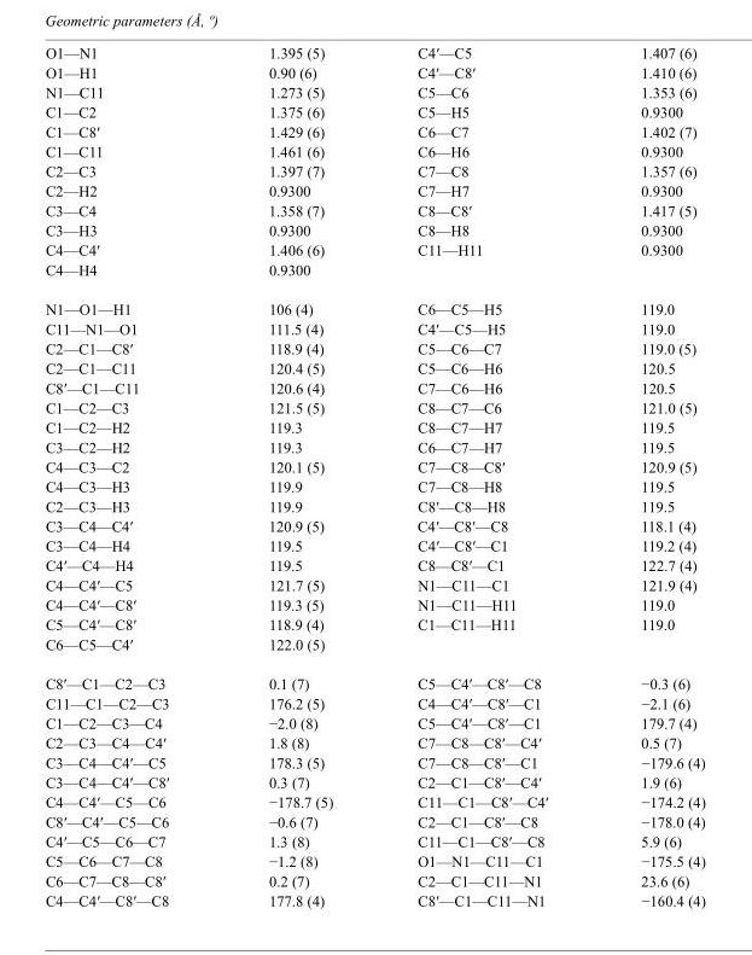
<table><tbody><tr><td>O1—N1</td><td>1.395 (5)</td><td>C4′—C5</td><td>1.407 (6)</td></tr><tr><td>O1—H1</td><td>0.90 (6)</td><td>C4′—C8′</td><td>1.410 (6)</td></tr><tr><td>N1—C11</td><td>1.273 (5)</td><td>C5—C6</td><td>1.353 (6)</td></tr><tr><td>C1—C2</td><td>1.375 (6)</td><td>C5—H5</td><td>0.9300</td></tr><tr><td>C1—C8′</td><td>1.429 (6)</td><td>C6—C7</td><td>1.402 (7)</td></tr><tr><td>C1—C11</td><td>1.461 (6)</td><td>C6—H6</td><td>0.9300</td></tr><tr><td>C2—C3</td><td>1.397 (7)</td><td>C7—C8</td><td>1.357 (6)</td></tr><tr><td>C2—H2</td><td>0.9300</td><td>C7—H7</td><td>0.9300</td></tr><tr><td>C3—C4</td><td>1.358 (7)</td><td>C8—C8′</td><td>1.417 (5)</td></tr><tr><td>C3—H3</td><td>0.9300</td><td>C8—H8</td><td>0.9300</td></tr><tr><td>C4—C4′</td><td>1.406 (6)</td><td>C11—H11</td><td>0.9300</td></tr><tr><td>C4—H4</td><td>0.9300</td><td></td><td></td></tr><tr><td>N1—O1—H1</td><td>106 (4)</td><td>C6—C5—H5</td><td>119.0</td></tr><tr><td>C11—N1—O1</td><td>111.5 (4)</td><td>C4′—C5—H5</td><td>119.0</td></tr><tr><td>C2—C1—C8′</td><td>118.9 (4)</td><td>C5—C6—C7</td><td>119.0 (5)</td></tr><tr><td>C2—C1—C11</td><td>120.4 (5)</td><td>C5—C6—H6</td><td>120.5</td></tr><tr><td>C8′—C1—C11</td><td>120.6 (4)</td><td>C7—C6—H6</td><td>120.5</td></tr><tr><td>C1—C2—C3</td><td>121.5 (5)</td><td>C8—C7—C6</td><td>121.0 (5)</td></tr><tr><td>C1—C2—H2</td><td>119.3</td><td>C8—C7—H7</td><td>119.5</td></tr><tr><td>C3—C2—H2</td><td>119.3</td><td>C6—C7—H7</td><td>119.5</td></tr><tr><td>C4—C3—C2</td><td>120.1 (5)</td><td>C7—C8—C8′</td><td>120.9 (5)</td></tr><tr><td>C4—C3—H3</td><td>119.9</td><td>C7—C8—H8</td><td>119.5</td></tr><tr><td>C2—C3—H3</td><td>119.9</td><td>C8′—C8—H8</td><td>119.5</td></tr><tr><td>C3—C4—C4′</td><td>120.9 (5)</td><td>C4′—C8′—C8</td><td>118.1 (4)</td></tr><tr><td>C3—C4—H4</td><td>119.5</td><td>C4′—C8′—C1</td><td>119.2 (4)</td></tr><tr><td>C4′—C4—H4</td><td>119.5</td><td>C8—C8′—C1</td><td>122.7 (4)</td></tr><tr><td>C4—C4′—C5</td><td>121.7 (5)</td><td>N1—C11—C1</td><td>121.9 (4)</td></tr><tr><td>C4—C4′—C8′</td><td>119.3 (5)</td><td>N1—C11—H11</td><td>119.0</td></tr><tr><td>C5—C4′—C8′</td><td>118.9 (4)</td><td>C1—C11—H11</td><td>119.0</td></tr><tr><td>C6—C5—C4′</td><td>122.0 (5)</td><td></td><td></td></tr><tr><td>C8′—C1—C2—C3</td><td>0.1 (7)</td><td>C5—C4′—C8′—C8</td><td>−0.3 (6)</td></tr><tr><td>C11—C1—C2—C3</td><td>176.2 (5)</td><td>C4—C4′—C8′—C1</td><td>−2.1 (6)</td></tr><tr><td>C1—C2—C3—C4</td><td>−2.0 (8)</td><td>C5—C4′—C8′—C1</td><td>179.7 (4)</td></tr><tr><td>C2—C3—C4—C4′</td><td>1.8 (8)</td><td>C7—C8—C8′—C4′</td><td>0.5 (7)</td></tr><tr><td>C3—C4—C4′—C5</td><td>178.3 (5)</td><td>C7—C8—C8′—C1</td><td>−179.6 (4)</td></tr><tr><td>C3—C4—C4′—C8′</td><td>0.3 (7)</td><td>C2—C1—C8′—C4′</td><td>1.9 (6)</td></tr><tr><td>C4—C4′—C5—C6</td><td>−178.7 (5)</td><td>C11—C1—C8′—C4′</td><td>−174.2 (4)</td></tr><tr><td>C8′—C4′—C5—C6</td><td>−0.6 (7)</td><td>C2—C1—C8′—C8</td><td>−178.0 (4)</td></tr><tr><td>C4′—C5—C6—C7</td><td>1.3 (8)</td><td>C11—C1—C8′—C8</td><td>5.9 (6)</td></tr><tr><td>C5—C6—C7—C8</td><td>−1.2 (8)</td><td>O1—N1—C11—C1</td><td>−175.5 (4)</td></tr><tr><td>C6—C7—C8—C8′</td><td>0.2 (7)</td><td>C2—C1—C11—N1</td><td>23.6 (6)</td></tr><tr><td>C4—C4′—C8′—C8</td><td>177.8 (4)</td><td>C8′—C1—C11—N1</td><td>−160.4 (4)</td></tr></tbody></table>